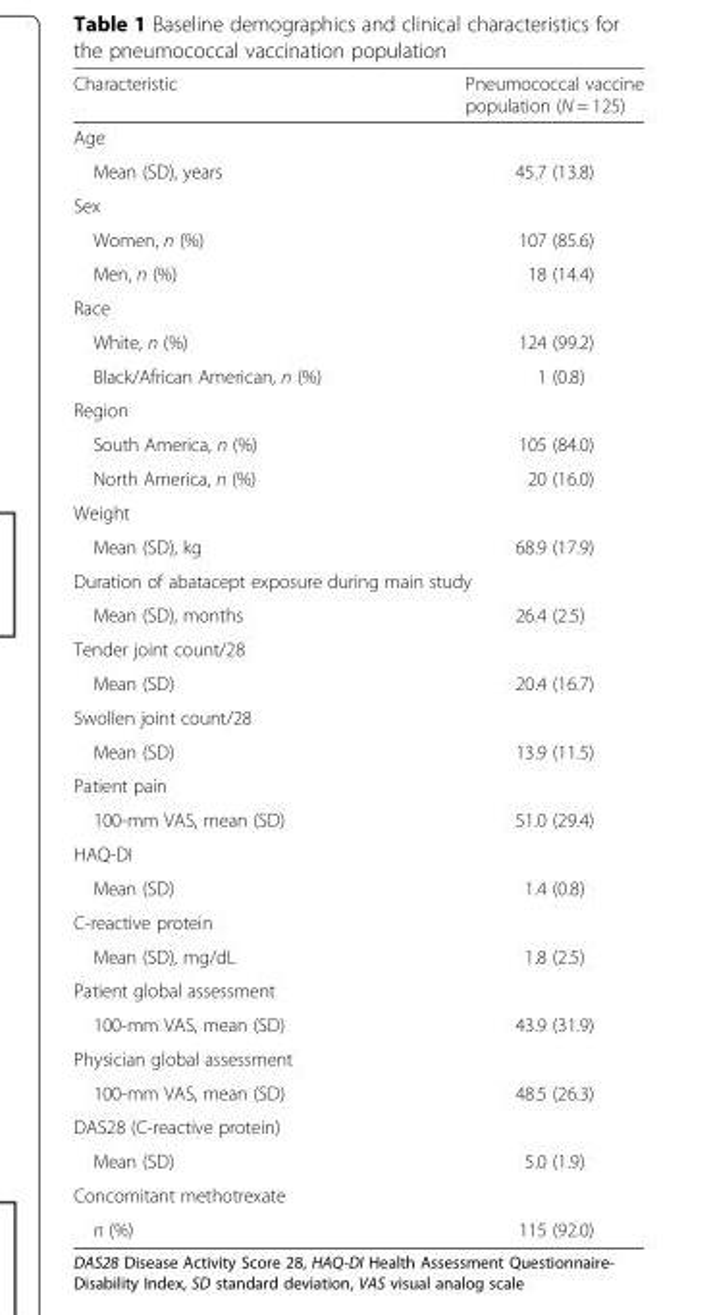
<table><thead><tr><td>Characteristic</td><td>Pneumococcal vaccine population (N = 125)</td></tr></thead><tbody><tr><td colspan="2">Age</td></tr><tr><td>Mean (SD), years</td><td>45.7 (13.8)</td></tr><tr><td colspan="2">Sex</td></tr><tr><td>Women, n (%)</td><td>107 (85.6)</td></tr><tr><td>Men, n (%)</td><td>18 (14.4)</td></tr><tr><td colspan="2">Race</td></tr><tr><td>White, n (%)</td><td>124 (99.2)</td></tr><tr><td>Black/African American, n (%)</td><td>1 (0.8)</td></tr><tr><td colspan="2">Region</td></tr><tr><td>South America, n (%)</td><td>105 (84.0)</td></tr><tr><td>North America, n (%)</td><td>20 (16.0)</td></tr><tr><td colspan="2">Weight</td></tr><tr><td>Mean (SD), kg</td><td>68.9 (17.9)</td></tr><tr><td colspan="2">Duration of abatacept exposure during main study</td></tr><tr><td>Mean (SD), months</td><td>26.4 (2.5)</td></tr><tr><td colspan="2">Tender joint count/28</td></tr><tr><td>Mean (SD)</td><td>20.4 (16.7)</td></tr><tr><td colspan="2">Swollen joint count/28</td></tr><tr><td>Mean (SD)</td><td>13.9 (11.5)</td></tr><tr><td colspan="2">Patient pain</td></tr><tr><td>100-mm VAS, mean (SD)</td><td>51.0 (29.4)</td></tr><tr><td colspan="2">HAQ-DI</td></tr><tr><td>Mean (SD)</td><td>1.4 (0.8)</td></tr><tr><td colspan="2">C-reactive protein</td></tr><tr><td>Mean (SD), mg/dL</td><td>1.8 (2.5)</td></tr><tr><td colspan="2">Patient global assessment</td></tr><tr><td>100-mm VAS, mean (SD)</td><td>43.9 (31.9)</td></tr><tr><td colspan="2">Physician global assessment</td></tr><tr><td>100-mm VAS, mean (SD)</td><td>48.5 (26.3)</td></tr><tr><td colspan="2">DAS28 (C-reactive protein)</td></tr><tr><td>Mean (SD)</td><td>5.0 (1.9)</td></tr><tr><td colspan="2">Concomitant methotrexate</td></tr><tr><td>n (%)</td><td>115 (92.0)</td></tr></tbody></table>